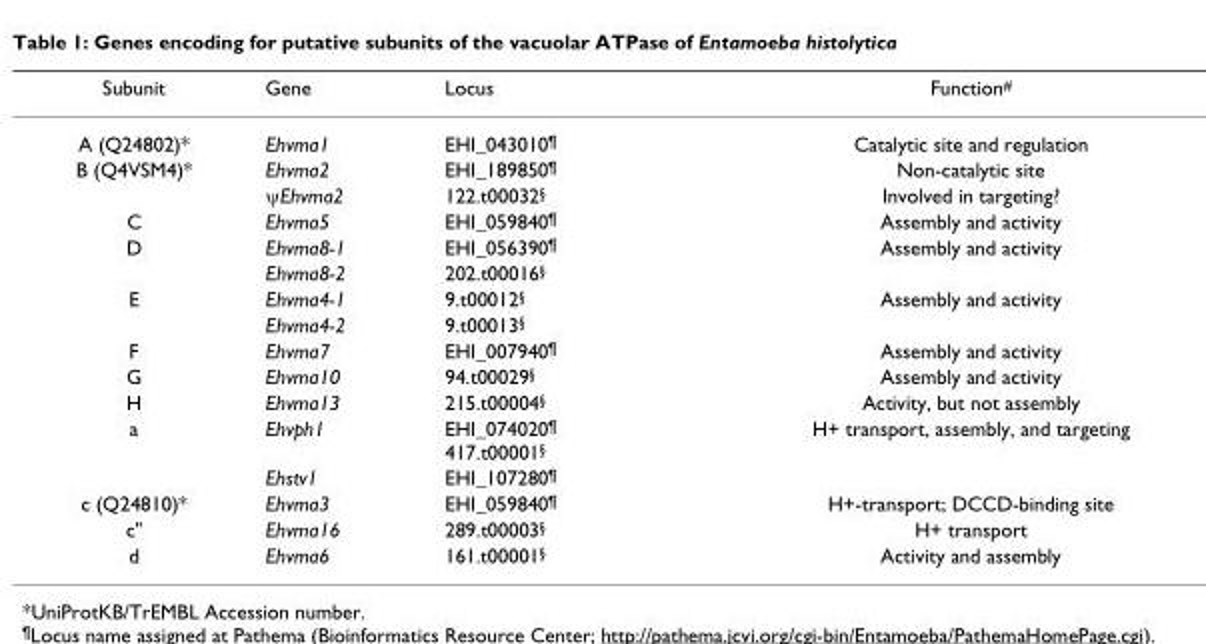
<table><thead><tr><td>Subunit</td><td>Gene</td><td>Locus</td><td>Function<sup>#</sup></td></tr></thead><tbody><tr><td>A (Q24802)*</td><td>Ehvma1</td><td>EHI_043010<sup>¶</sup></td><td>Catalytic site and regulation</td></tr><tr><td rowspan="2">B (Q4VSM4)*</td><td>Ehvma2</td><td>EHI_189850<sup>¶</sup></td><td>Non-catalytic site</td></tr><tr><td>ψEhvma2</td><td>122.t00032<sup>§</sup></td><td>Involved in targeting?</td></tr><tr><td>C</td><td>Ehvma5</td><td>EHI_059840<sup>¶</sup></td><td>Assembly and activity</td></tr><tr><td rowspan="2">D</td><td>Ehvma8-1</td><td>EHI_056390<sup>¶</sup></td><td>Assembly and activity</td></tr><tr><td>Ehvma8-2</td><td>202.t00016<sup>§</sup></td><td></td></tr><tr><td rowspan="2">E</td><td>Ehvma4-1</td><td>9.t00012<sup>§</sup></td><td>Assembly and activity</td></tr><tr><td>Ehvma4-2</td><td>9.t00013<sup>§</sup></td><td></td></tr><tr><td>F</td><td>Ehvma7</td><td>EHI_007940<sup>¶</sup></td><td>Assembly and activity</td></tr><tr><td>G</td><td>Ehvma10</td><td>94.t00029<sup>§</sup></td><td>Assembly and activity</td></tr><tr><td>H</td><td>Ehvma13</td><td>215.t00004<sup>§</sup></td><td>Activity, but not assembly</td></tr><tr><td rowspan="2">a</td><td>Ehvph1</td><td>EHI_074020<sup>¶</sup> 417.t00001<sup>§</sup></td><td>H+ transport, assembly, and targeting</td></tr><tr><td>Ehstv1</td><td>EHI_107280<sup>¶</sup></td><td></td></tr><tr><td>c (Q24810)*</td><td>Ehvma3</td><td>EHI_059840<sup>¶</sup></td><td>H+-transport; DCCD-binding site</td></tr><tr><td>c&quot;</td><td>Ehvma16</td><td>289.t00003<sup>§</sup></td><td>H+ transport</td></tr><tr><td>d</td><td>Ehvma6</td><td>161.t00001<sup>§</sup></td><td>Activity and assembly</td></tr></tbody></table>